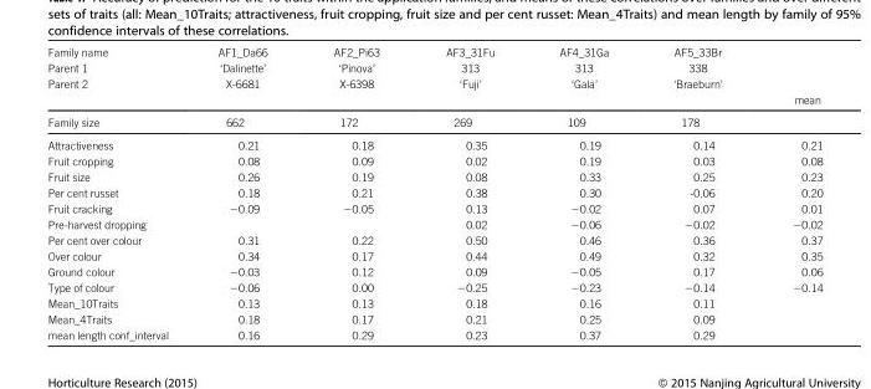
<table><thead><tr><td rowspan="4">Family name Parent 1 Parent 2</td><td rowspan="4">AF1_Da66 ‘Dalinette’ X-6681</td><td rowspan="4">AF2_Pi63 ‘Pinova’ X-6398</td><td rowspan="4">AF3_31Fu 313 ‘Fuji’</td><td rowspan="4">AF4_31Ga 313 ‘Gala’</td><td rowspan="4">AF5_33Br 338 ‘Braeburn’</td><td rowspan="4">mean</td></tr><tr></tr><tr></tr><tr></tr></thead><tbody><tr><td>Family size</td><td>662</td><td>172</td><td>269</td><td>109</td><td>178</td><td></td></tr><tr><td>Attractiveness</td><td>0.21</td><td>0.18</td><td>0.35</td><td>0.19</td><td>0.14</td><td>0.21</td></tr><tr><td>Fruit cropping</td><td>0.08</td><td>0.09</td><td>0.02</td><td>0.19</td><td>0.03</td><td>0.08</td></tr><tr><td>Fruit size</td><td>0.26</td><td>0.19</td><td>0.08</td><td>0.33</td><td>0.25</td><td>0.23</td></tr><tr><td>Per cent russet</td><td>0.18</td><td>0.21</td><td>0.38</td><td>0.30</td><td>-0.06</td><td>0.20</td></tr><tr><td>Fruit cracking</td><td>−0.09</td><td>−0.05</td><td>0.13</td><td>−0.02</td><td>0.07</td><td>0.01</td></tr><tr><td>Pre-harvest dropping</td><td></td><td></td><td>0.02</td><td>−0.06</td><td>−0.02</td><td>−0.02</td></tr><tr><td>Per cent over colour</td><td>0.31</td><td>0.22</td><td>0.50</td><td>0.46</td><td>0.36</td><td>0.37</td></tr><tr><td>Over colour</td><td>0.34</td><td>0.17</td><td>0.44</td><td>0.49</td><td>0.32</td><td>0.35</td></tr><tr><td>Ground colour</td><td>−0.03</td><td>0.12</td><td>0.09</td><td>−0.05</td><td>0.17</td><td>0.06</td></tr><tr><td>Type of colour</td><td>−0.06</td><td>0.00</td><td>−0.25</td><td>−0.23</td><td>−0.14</td><td>−0.14</td></tr><tr><td>Mean_10Traits</td><td>0.13</td><td>0.13</td><td>0.18</td><td>0.16</td><td>0.11</td><td></td></tr><tr><td>Mean_4Traits</td><td>0.18</td><td>0.17</td><td>0.21</td><td>0.25</td><td>0.09</td><td></td></tr><tr><td>mean length conf_interval</td><td>0.16</td><td>0.29</td><td>0.23</td><td>0.37</td><td>0.29</td><td></td></tr></tbody></table>